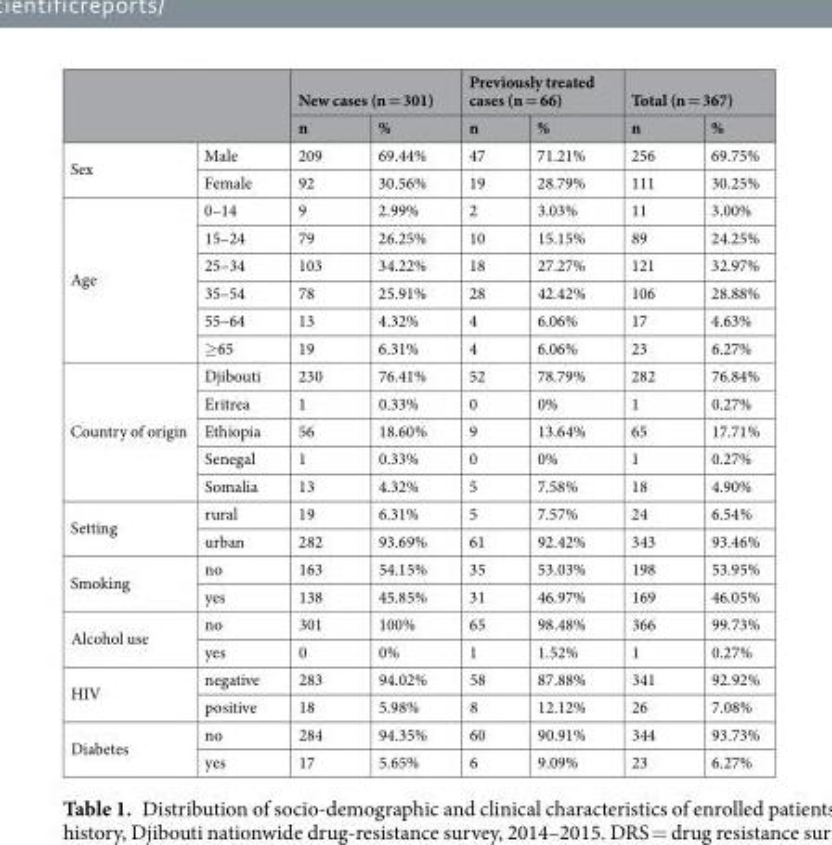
<table><thead><tr><td rowspan="2"></td><td rowspan="2"></td><td colspan="2">New cases (n = 301)</td><td colspan="2">Previously treated cases (n = 66)</td><td colspan="2">Total (n = 367)</td></tr><tr><td>n</td><td>%</td><td>n</td><td>%</td><td>n</td><td>%</td></tr></thead><tbody><tr><td rowspan="2">Sex</td><td>Male</td><td>209</td><td>69.44%</td><td>47</td><td>71.21%</td><td>256</td><td>69.75%</td></tr><tr><td>Female</td><td>92</td><td>30.56%</td><td>19</td><td>28.79%</td><td>111</td><td>30.25%</td></tr><tr><td rowspan="6">Age</td><td>0–14</td><td>9</td><td>2.99%</td><td>2</td><td>3.03%</td><td>11</td><td>3.00%</td></tr><tr><td>15–24</td><td>79</td><td>26.25%</td><td>10</td><td>15.15%</td><td>89</td><td>24.25%</td></tr><tr><td>25–34</td><td>103</td><td>34.22%</td><td>18</td><td>27.27%</td><td>121</td><td>32.97%</td></tr><tr><td>35–54</td><td>78</td><td>25.91%</td><td>28</td><td>42.42%</td><td>106</td><td>28.88%</td></tr><tr><td>55–64</td><td>13</td><td>4.32%</td><td>4</td><td>6.06%</td><td>17</td><td>4.63%</td></tr><tr><td>≥65</td><td>19</td><td>6.31%</td><td>4</td><td>6.06%</td><td>23</td><td>6.27%</td></tr><tr><td rowspan="5">Country of origin</td><td>Djibouti</td><td>230</td><td>76.41%</td><td>52</td><td>78.79%</td><td>282</td><td>76.84%</td></tr><tr><td>Eritrea</td><td>1</td><td>0.33%</td><td>0</td><td>0%</td><td>1</td><td>0.27%</td></tr><tr><td>Ethiopia</td><td>56</td><td>18.60%</td><td>9</td><td>13.64%</td><td>65</td><td>17.71%</td></tr><tr><td>Senegal</td><td>1</td><td>0.33%</td><td>0</td><td>0%</td><td>1</td><td>0.27%</td></tr><tr><td>Somalia</td><td>13</td><td>4.32%</td><td>5</td><td>7.58%</td><td>18</td><td>4.90%</td></tr><tr><td rowspan="2">Setting</td><td>rural</td><td>19</td><td>6.31%</td><td>5</td><td>7.57%</td><td>24</td><td>6.54%</td></tr><tr><td>urban</td><td>282</td><td>93.69%</td><td>61</td><td>92.42%</td><td>343</td><td>93.46%</td></tr><tr><td rowspan="2">Smoking</td><td>no</td><td>163</td><td>54.15%</td><td>35</td><td>53.03%</td><td>198</td><td>53.95%</td></tr><tr><td>yes</td><td>138</td><td>45.85%</td><td>31</td><td>46.97%</td><td>169</td><td>46.05%</td></tr><tr><td rowspan="2">Alcohol use</td><td>no</td><td>301</td><td>100%</td><td>65</td><td>98.48%</td><td>366</td><td>99.73%</td></tr><tr><td>yes</td><td>0</td><td>0%</td><td>1</td><td>1.52%</td><td>1</td><td>0.27%</td></tr><tr><td rowspan="2">HIV</td><td>negative</td><td>283</td><td>94.02%</td><td>58</td><td>87.88%</td><td>341</td><td>92.92%</td></tr><tr><td>positive</td><td>18</td><td>5.98%</td><td>8</td><td>12.12%</td><td>26</td><td>7.08%</td></tr><tr><td rowspan="2">Diabetes</td><td>no</td><td>284</td><td>94.35%</td><td>60</td><td>90.91%</td><td>344</td><td>93.73%</td></tr><tr><td>yes</td><td>17</td><td>5.65%</td><td>6</td><td>9.09%</td><td>23</td><td>6.27%</td></tr></tbody></table>